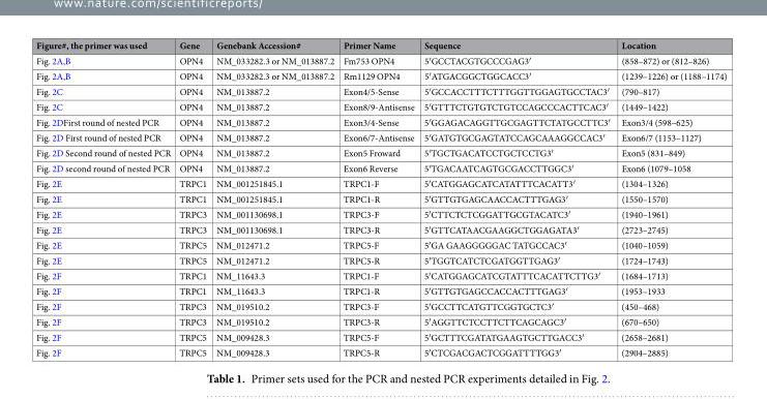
<table><thead><tr><td>Figure#, the primer was used</td><td>Gene</td><td>Genebank Accession#</td><td>Primer Name</td><td>Sequence</td><td>Location</td></tr></thead><tbody><tr><td>Fig. 2A,B</td><td>OPN4</td><td>NM_033282.3 or NM_013887.2</td><td>Fm753 OPN4</td><td>5′GCCTACGTGCCCGAG3′</td><td>(858–872) or (812–826)</td></tr><tr><td>Fig. 2A,B</td><td>OPN4</td><td>NM_033282.3 or NM_013887.2</td><td>Rm1129 OPN4</td><td>5′ATGACGGCTGGCACC3′</td><td>(1239–1226) or (1188–1174)</td></tr><tr><td>Fig. 2C</td><td>OPN4</td><td>NM_013887.2</td><td>Exon4/5-Sense</td><td>5′GCCACCTTTCTTTGGTTGGAGTGCCTAC3′</td><td>(790–817)</td></tr><tr><td>Fig. 2C</td><td>OPN4</td><td>NM_013887.2</td><td>Exon8/9-Antisense</td><td>5′GTTTCTGTGTCTGTCCAGCCCACTTCAC3′</td><td>(1449–1422)</td></tr><tr><td>Fig. 2DFirst round of nested PCR</td><td>OPN4</td><td>NM_013887.2</td><td>Exon3/4-Sense</td><td>5′GGAGACAGGTTGCGAGTTCTATGCCTTC3′</td><td>Exon3/4 (598–625)</td></tr><tr><td>Fig. 2D First round of nested PCR</td><td>OPN4</td><td>NM_013887.2</td><td>Exon6/7-Antisense</td><td>5′GATGTGCGAGTATCCAGCAAAGGCCAC3′</td><td>Exon6/7 (1153–1127)</td></tr><tr><td>Fig. 2D Second round of nested PCR</td><td>OPN4</td><td>NM_013887.2</td><td>Exon5 Froward</td><td>5′TGCTGACATCCTGCTCCTG3′</td><td>Exon5 (831–849)</td></tr><tr><td>Fig. 2D second round of nested PCR</td><td>OPN4</td><td>NM_013887.2</td><td>Exon6 Reverse</td><td>5′TGACAATCAGTGCGACCTTGGC3′</td><td>Exon6 (1079–1058</td></tr><tr><td>Fig. 2E</td><td>TRPC1</td><td>NM_001251845.1</td><td>TRPC1-F</td><td>5′CATGGAGCATCATATTTCACATT3′</td><td>(1304–1326)</td></tr><tr><td>Fig. 2E</td><td>TRPC1</td><td>NM_001251845.1</td><td>TRPC1-R</td><td>5′GTTGTGAGCAACCACTTTGAG3′</td><td>(1550–1570)</td></tr><tr><td>Fig. 2E</td><td>TRPC3</td><td>NM_001130698.1</td><td>TRPC3-F</td><td>5′CTTCTCTCGGATTGCGTACATC3′</td><td>(1940–1961)</td></tr><tr><td>Fig. 2E</td><td>TRPC3</td><td>NM_001130698.1</td><td>TRPC3-R</td><td>5′GTTCATAACGAAGGCTGGAGATA3′</td><td>(2723–2745)</td></tr><tr><td>Fig. 2E</td><td>TRPC5</td><td>NM_012471.2</td><td>TRPC5-F</td><td>5′GA GAAGGGGGAC TATGCCAC3′</td><td>(1040–1059)</td></tr><tr><td>Fig. 2E</td><td>TRPC5</td><td>NM_012471.2</td><td>TRPC5-R</td><td>5′TGGTCATCTCGATGGTTGAG3′</td><td>(1724–1743)</td></tr><tr><td>Fig. 2F</td><td>TRPC1</td><td>NM_11643.3</td><td>TRPC1-F</td><td>5′CATGGAGCATCGTATTTCACATTCTTG3′</td><td>(1684–1713)</td></tr><tr><td>Fig. 2F</td><td>TRPC1</td><td>NM_11643.3</td><td>TRPC1-R</td><td>5′GTTGTGAGCCACCACTTTGAG3′</td><td>(1953–1933</td></tr><tr><td>Fig. 2F</td><td>TRPC3</td><td>NM_019510.2</td><td>TRPC3-F</td><td>5′GCCTTCATGTTCGGTGCTC3′</td><td>(450–468)</td></tr><tr><td>Fig. 2F</td><td>TRPC3</td><td>NM_019510.2</td><td>TRPC3-R</td><td>5′AGGTTCTCCTTCTTCAGCAGC3′</td><td>(670–650)</td></tr><tr><td>Fig. 2F</td><td>TRPC5</td><td>NM_009428.3</td><td>TRPC5-F</td><td>5′GCTTTCGATATGAAGTGCTTGACC3′</td><td>(2658–2681)</td></tr><tr><td>Fig. 2F</td><td>TRPC5</td><td>NM_009428.3</td><td>TRPC5-R</td><td>5′CTCGACGACTCGGATTTTGG3′</td><td>(2904–2885)</td></tr></tbody></table>